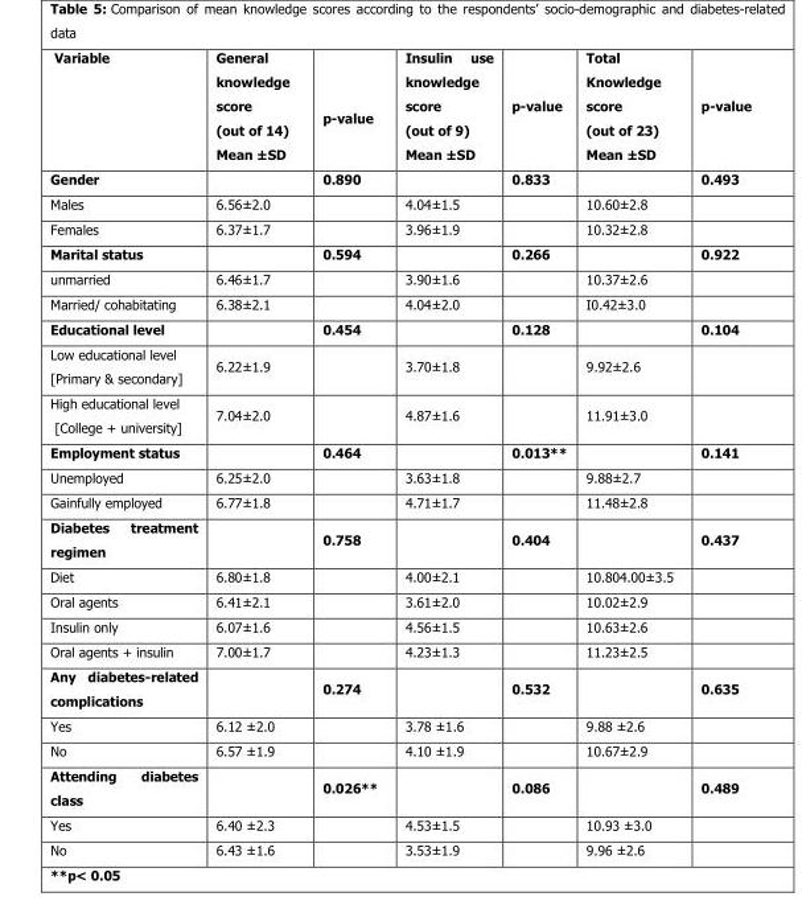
<table><thead><tr><td>Variable</td><td>General knowledge score (out of 14) Mean ±SD</td><td>p-value</td><td>Insulin use knowledge score (out of 9) Mean ±SD</td><td>p-value</td><td>Total Knowledge score (out of 23) Mean ±SD</td><td>p-value</td></tr></thead><tbody><tr><td>Gender</td><td></td><td>0.890</td><td></td><td>0.833</td><td></td><td>0.493</td></tr><tr><td>Males</td><td>6.56±2.0</td><td></td><td>4.04±1.5</td><td></td><td>10.60±2.8</td><td></td></tr><tr><td>Females</td><td>6.37±1.7</td><td></td><td>3.96±1.9</td><td></td><td>10.32±2.8</td><td></td></tr><tr><td>Marital status</td><td></td><td>0.594</td><td></td><td>0.266</td><td></td><td>0.922</td></tr><tr><td>unmarried</td><td>6.46±1.7</td><td></td><td>3.90±1.6</td><td></td><td>10.37±2.6</td><td></td></tr><tr><td>Married/ cohabitating</td><td>6.38±2.1</td><td></td><td>4.04±2.0</td><td></td><td>I0.42±3.0</td><td></td></tr><tr><td>Educational level</td><td></td><td>0.454</td><td></td><td>0.128</td><td></td><td>0.104</td></tr><tr><td>Low educational level [Primary &amp; secondary]</td><td>6.22±1.9</td><td></td><td>3.70±1.8</td><td></td><td>9.92±2.6</td><td></td></tr><tr><td>High educational level [College + university]</td><td>7.04±2.0</td><td></td><td>4.87±1.6</td><td></td><td>11.91±3.0</td><td></td></tr><tr><td>Employment status</td><td></td><td>0.464</td><td></td><td>0.013**</td><td></td><td>0.141</td></tr><tr><td>Unemployed</td><td>6.25±2.0</td><td></td><td>3.63±1.8</td><td></td><td>9.88±2.7</td><td></td></tr><tr><td>Gainfully employed</td><td>6.77±1.8</td><td></td><td>4.71±1.7</td><td></td><td>11.48±2.8</td><td></td></tr><tr><td>Diabetes treatment regimen</td><td></td><td>0.758</td><td></td><td>0.404</td><td></td><td>0.437</td></tr><tr><td>Diet</td><td>6.80±1.8</td><td></td><td>4.00±2.1</td><td></td><td>10.804.00±3.5</td><td></td></tr><tr><td>Oral agents</td><td>6.41±2.1</td><td></td><td>3.61±2.0</td><td></td><td>10.02±2.9</td><td></td></tr><tr><td>Insulin only</td><td>6.07±1.6</td><td></td><td>4.56±1.5</td><td></td><td>10.63±2.6</td><td></td></tr><tr><td>Oral agents + insulin</td><td>7.00±1.7</td><td></td><td>4.23±1.3</td><td></td><td>11.23±2.5</td><td></td></tr><tr><td>Any diabetes-related complications</td><td></td><td>0.274</td><td></td><td>0.532</td><td></td><td>0.635</td></tr><tr><td>Yes</td><td>6.12 ±2.0</td><td></td><td>3.78 ±1.6</td><td></td><td>9.88 ±2.6</td><td></td></tr><tr><td>No</td><td>6.57 ±1.9</td><td></td><td>4.10 ±1.9</td><td></td><td>10.67±2.9</td><td></td></tr><tr><td>Attending diabetes class</td><td></td><td>0.026**</td><td></td><td>0.086</td><td></td><td>0.489</td></tr><tr><td>Yes</td><td>6.40 ±2.3</td><td></td><td>4.53±1.5</td><td></td><td>10.93 ±3.0</td><td></td></tr><tr><td>No</td><td>6.43 ±1.6</td><td></td><td>3.53±1.9</td><td></td><td>9.96 ±2.6</td><td></td></tr></tbody></table>